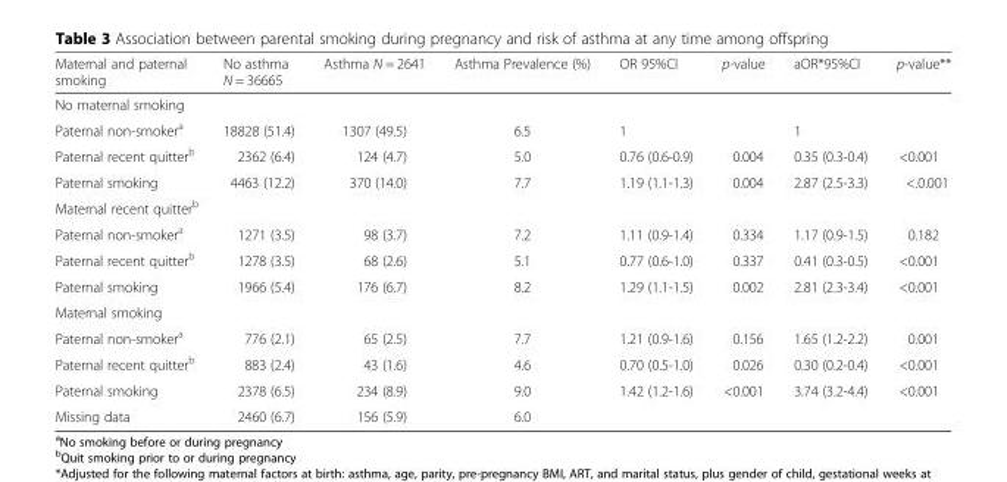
<table><thead><tr><td>Maternal and paternal smoking</td><td>No asthma N = 36665</td><td>Asthma N = 2641</td><td>Asthma Prevalence (%)</td><td>OR 95%CI</td><td>p-value</td><td>aOR*95%CI</td><td>p-value**</td></tr></thead><tbody><tr><td colspan="8">No maternal smoking</td></tr><tr><td>Paternal non-smoker<sup>a</sup></td><td>18828 (51.4)</td><td>1307 (49.5)</td><td>6.5</td><td>1</td><td></td><td>1</td><td></td></tr><tr><td>Paternal recent quitter<sup>b</sup></td><td>2362 (6.4)</td><td>124 (4.7)</td><td>5.0</td><td>0.76 (0.6-0.9)</td><td>0.004</td><td>0.35 (0.3-0.4)</td><td>&lt;0.001</td></tr><tr><td>Paternal smoking</td><td>4463 (12.2)</td><td>370 (14.0)</td><td>7.7</td><td>1.19 (1.1-1.3)</td><td>0.004</td><td>2.87 (2.5-3.3)</td><td>&lt;.0.001</td></tr><tr><td colspan="8">Maternal recent quitter<sup>b</sup></td></tr><tr><td>Paternal non-smoker<sup>a</sup></td><td>1271 (3.5)</td><td>98 (3.7)</td><td>7.2</td><td>1.11 (0.9-1.4)</td><td>0.334</td><td>1.17 (0.9-1.5)</td><td>0.182</td></tr><tr><td>Paternal recent quitter<sup>b</sup></td><td>1278 (3.5)</td><td>68 (2.6)</td><td>5.1</td><td>0.77 (0.6-1.0)</td><td>0.337</td><td>0.41 (0.3-0.5)</td><td>&lt;0.001</td></tr><tr><td>Paternal smoking</td><td>1966 (5.4)</td><td>176 (6.7)</td><td>8.2</td><td>1.29 (1.1-1.5)</td><td>0.002</td><td>2.81 (2.3-3.4)</td><td>&lt;0.001</td></tr><tr><td colspan="8">Maternal smoking</td></tr><tr><td>Paternal non-smoker<sup>a</sup></td><td>776 (2.1)</td><td>65 (2.5)</td><td>7.7</td><td>1.21 (0.9-1.6)</td><td>0.156</td><td>1.65 (1.2-2.2)</td><td>0.001</td></tr><tr><td>Paternal recent quitter<sup>b</sup></td><td>883 (2.4)</td><td>43 (1.6)</td><td>4.6</td><td>0.70 (0.5-1.0)</td><td>0.026</td><td>0.30 (0.2-0.4)</td><td>&lt;0.001</td></tr><tr><td>Paternal smoking</td><td>2378 (6.5)</td><td>234 (8.9)</td><td>9.0</td><td>1.42 (1.2-1.6)</td><td>&lt;0.001</td><td>3.74 (3.2-4.4)</td><td>&lt;0.001</td></tr><tr><td>Missing data</td><td>2460 (6.7)</td><td>156 (5.9)</td><td>6.0</td><td></td><td></td><td></td><td></td></tr></tbody></table>